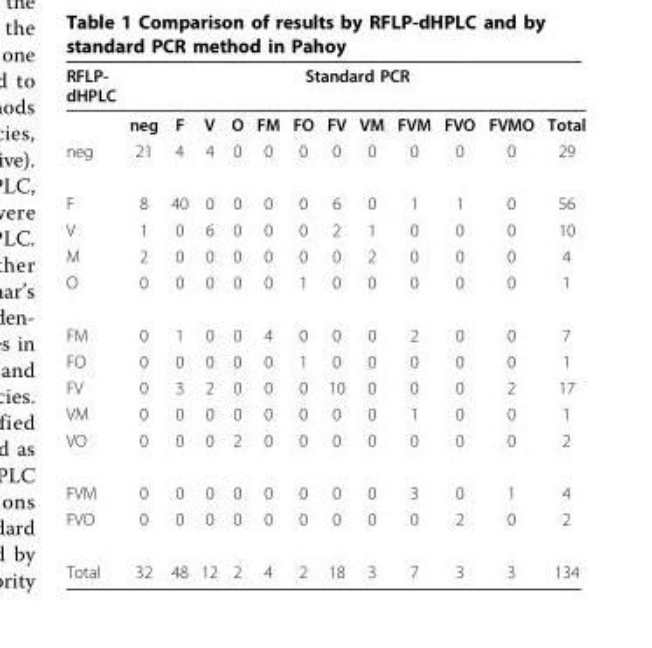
<table><tbody><tr><td rowspan="2">RFLP- dHPLC</td><td colspan="12">Standard PCR</td></tr><tr><td>neg</td><td>F</td><td>V</td><td>O</td><td>FM</td><td>FO</td><td>FV</td><td>VM</td><td>FVM</td><td>FVO</td><td>FVMO</td><td>Total</td></tr><tr><td>neg</td><td>21</td><td>4</td><td>4</td><td>0</td><td>0</td><td>0</td><td>0</td><td>0</td><td>0</td><td>0</td><td>0</td><td>29</td></tr><tr><td>F</td><td>8</td><td>40</td><td>0</td><td>0</td><td>0</td><td>0</td><td>6</td><td>0</td><td>1</td><td>1</td><td>0</td><td>56</td></tr><tr><td>V</td><td>1</td><td>0</td><td>6</td><td>0</td><td>0</td><td>0</td><td>2</td><td>1</td><td>0</td><td>0</td><td>0</td><td>10</td></tr><tr><td>M</td><td>2</td><td>0</td><td>0</td><td>0</td><td>0</td><td>0</td><td>0</td><td>2</td><td>0</td><td>0</td><td>0</td><td>4</td></tr><tr><td>O</td><td>0</td><td>0</td><td>0</td><td>0</td><td>0</td><td>1</td><td>0</td><td>0</td><td>0</td><td>0</td><td>0</td><td>1</td></tr><tr><td>FM</td><td>0</td><td>1</td><td>0</td><td>0</td><td>4</td><td>0</td><td>0</td><td>0</td><td>2</td><td>0</td><td>0</td><td>7</td></tr><tr><td>FO</td><td>0</td><td>0</td><td>0</td><td>0</td><td>0</td><td>1</td><td>0</td><td>0</td><td>0</td><td>0</td><td>0</td><td>1</td></tr><tr><td>FV</td><td>0</td><td>3</td><td>2</td><td>0</td><td>0</td><td>0</td><td>10</td><td>0</td><td>0</td><td>0</td><td>2</td><td>17</td></tr><tr><td>VM</td><td>0</td><td>0</td><td>0</td><td>0</td><td>0</td><td>0</td><td>0</td><td>0</td><td>1</td><td>0</td><td>0</td><td>1</td></tr><tr><td>VO</td><td>0</td><td>0</td><td>0</td><td>2</td><td>0</td><td>0</td><td>0</td><td>0</td><td>0</td><td>0</td><td>0</td><td>2</td></tr><tr><td>FVM</td><td>0</td><td>0</td><td>0</td><td>0</td><td>0</td><td>0</td><td>0</td><td>0</td><td>3</td><td>0</td><td>1</td><td>4</td></tr><tr><td>FVO</td><td>0</td><td>0</td><td>0</td><td>0</td><td>0</td><td>0</td><td>0</td><td>0</td><td>0</td><td>2</td><td>0</td><td>2</td></tr><tr><td>Total</td><td>32</td><td>48</td><td>12</td><td>2</td><td>4</td><td>2</td><td>18</td><td>3</td><td>7</td><td>3</td><td>3</td><td>134</td></tr></tbody></table>